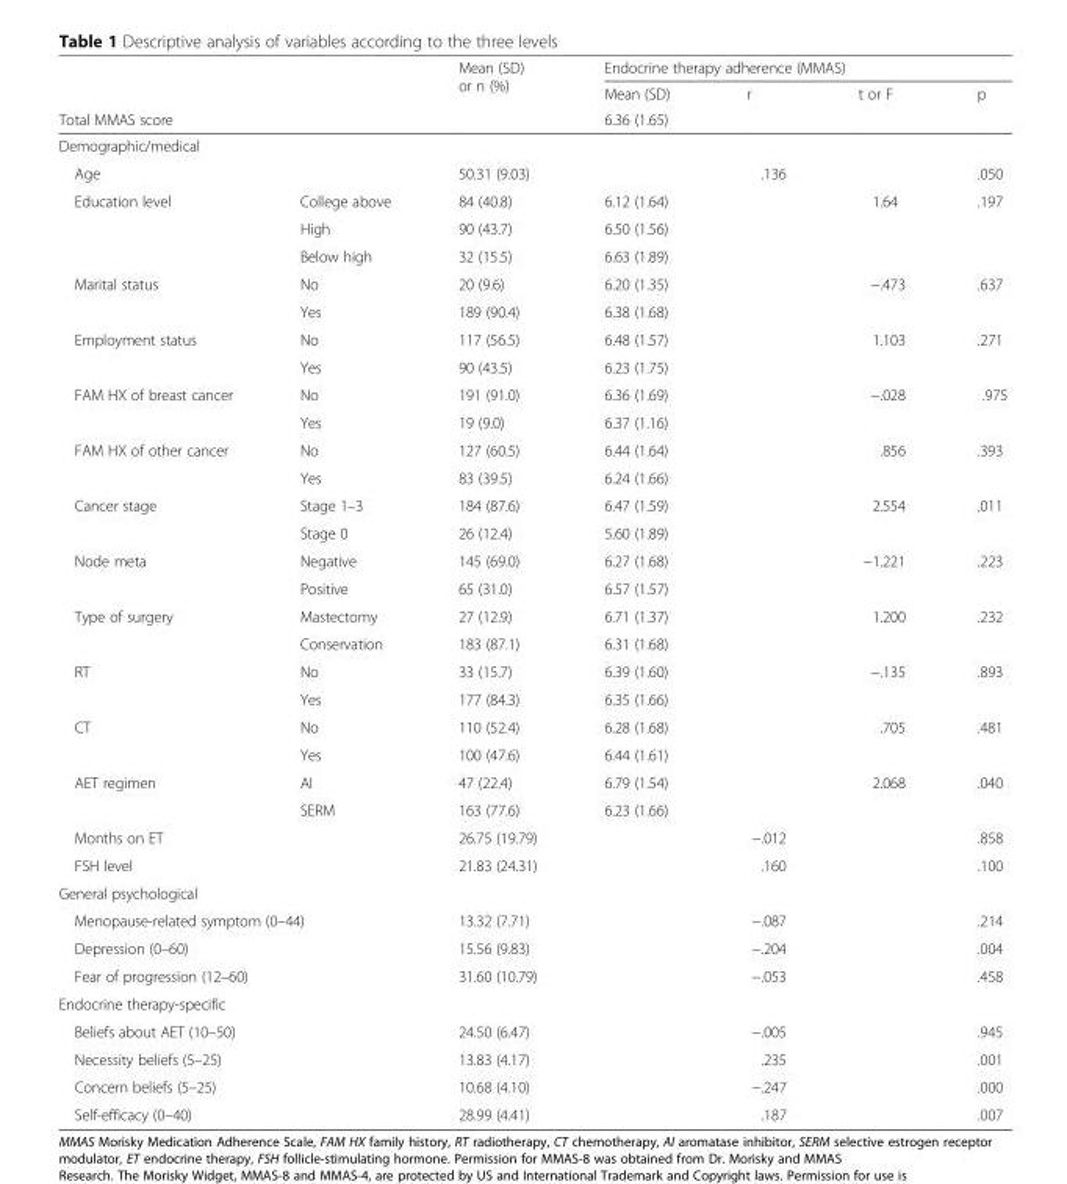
<table><thead><tr><td rowspan="2"></td><td rowspan="2"></td><td rowspan="3">Mean (SD) or n (%)</td><td colspan="4">Endocrine therapy adherence (MMAS)</td></tr><tr><td rowspan="2">Mean (SD) 6.36 (1.65)</td><td rowspan="2">r</td><td rowspan="2">t or F</td><td rowspan="2">p</td></tr><tr><td colspan="2">Total MMAS score</td></tr></thead><tbody><tr><td colspan="7">Demographic/medical</td></tr><tr><td colspan="2">Age</td><td>50.31 (9.03)</td><td></td><td>.136</td><td></td><td>.050</td></tr><tr><td rowspan="3">Education level</td><td>College above</td><td>84 (40.8)</td><td>6.12 (1.64)</td><td rowspan="3"></td><td rowspan="3">1.64</td><td rowspan="3">.197</td></tr><tr><td>High</td><td>90 (43.7)</td><td>6.50 (1.56)</td></tr><tr><td>Below high</td><td>32 (15.5)</td><td>6.63 (1.89)</td></tr><tr><td rowspan="2">Marital status</td><td>No</td><td>20 (9.6)</td><td>6.20 (1.35)</td><td rowspan="2"></td><td rowspan="2">−.473</td><td rowspan="2">.637</td></tr><tr><td>Yes</td><td>189 (90.4)</td><td>6.38 (1.68)</td></tr><tr><td rowspan="2">Employment status</td><td>No</td><td>117 (56.5)</td><td>6.48 (1.57)</td><td rowspan="2"></td><td rowspan="2">1.103</td><td rowspan="2">.271</td></tr><tr><td>Yes</td><td>90 (43.5)</td><td>6.23 (1.75)</td></tr><tr><td rowspan="2">FAM HX of breast cancer</td><td>No</td><td>191 (91.0)</td><td>6.36 (1.69)</td><td></td><td rowspan="2">−.028</td><td rowspan="2">.975</td></tr><tr><td>Yes</td><td>19 (9.0)</td><td>6.37 (1.16)</td><td></td></tr><tr><td rowspan="2">FAM HX of other cancer</td><td>No</td><td>127 (60.5)</td><td>6.44 (1.64)</td><td></td><td rowspan="2">.856</td><td rowspan="2">.393</td></tr><tr><td>Yes</td><td>83 (39.5)</td><td>6.24 (1.66)</td><td></td></tr><tr><td rowspan="2">Cancer stage</td><td>Stage 1–3</td><td>184 (87.6)</td><td>6.47 (1.59)</td><td></td><td rowspan="2">2.554</td><td rowspan="2">.011</td></tr><tr><td>Stage 0</td><td>26 (12.4)</td><td>5.60 (1.89)</td><td></td></tr><tr><td rowspan="2">Node meta</td><td>Negative</td><td>145 (69.0)</td><td>6.27 (1.68)</td><td></td><td rowspan="2">−1.221</td><td rowspan="2">.223</td></tr><tr><td>Positive</td><td>65 (31.0)</td><td>6.57 (1.57)</td><td></td></tr><tr><td rowspan="2">Type of surgery</td><td>Mastectomy</td><td>27 (12.9)</td><td>6.71 (1.37)</td><td rowspan="2"></td><td rowspan="2">1.200</td><td rowspan="2">.232</td></tr><tr><td>Conservation</td><td>183 (87.1)</td><td>6.31 (1.68)</td></tr><tr><td rowspan="2">RT</td><td>No</td><td>33 (15.7)</td><td>6.39 (1.60)</td><td rowspan="2"></td><td rowspan="2">−.135</td><td rowspan="2">.893</td></tr><tr><td>Yes</td><td>177 (84.3)</td><td>6.35 (1.66)</td></tr><tr><td rowspan="2">CT</td><td>No</td><td>110 (52.4)</td><td>6.28 (1.68)</td><td rowspan="2"></td><td rowspan="2">.705</td><td rowspan="2">.481</td></tr><tr><td>Yes</td><td>100 (47.6)</td><td>6.44 (1.61)</td></tr><tr><td rowspan="2">AET regimen</td><td>AI</td><td>47 (22.4)</td><td>6.79 (1.54)</td><td></td><td rowspan="2">2.068</td><td rowspan="2">.040</td></tr><tr><td>SERM</td><td>163 (77.6)</td><td>6.23 (1.66)</td><td></td></tr><tr><td>Months on ET</td><td></td><td>26.75 (19.79)</td><td></td><td>−.012</td><td></td><td>.858</td></tr><tr><td>FSH level</td><td></td><td>21.83 (24.31)</td><td></td><td>.160</td><td></td><td>.100</td></tr><tr><td colspan="7">General psychological</td></tr><tr><td colspan="2">Menopause-related symptom (0–44)</td><td>13.32 (7.71)</td><td></td><td>−.087</td><td></td><td>.214</td></tr><tr><td colspan="2">Depression (0–60)</td><td>15.56 (9.83)</td><td></td><td>−.204</td><td></td><td>.004</td></tr><tr><td colspan="2">Fear of progression (12–60)</td><td>31.60 (10.79)</td><td></td><td>−.053</td><td></td><td>.458</td></tr><tr><td colspan="7">Endocrine therapy-specific</td></tr><tr><td colspan="2">Beliefs about AET (10–50)</td><td>24.50 (6.47)</td><td></td><td>−.005</td><td></td><td>.945</td></tr><tr><td colspan="2">Necessity beliefs (5–25)</td><td>13.83 (4.17)</td><td></td><td>.235</td><td></td><td>.001</td></tr><tr><td colspan="2">Concern beliefs (5–25)</td><td>10.68 (4.10)</td><td></td><td>−.247</td><td></td><td>.000</td></tr><tr><td colspan="2">Self-efficacy (0–40)</td><td>28.99 (4.41)</td><td></td><td>.187</td><td></td><td>.007</td></tr></tbody></table>